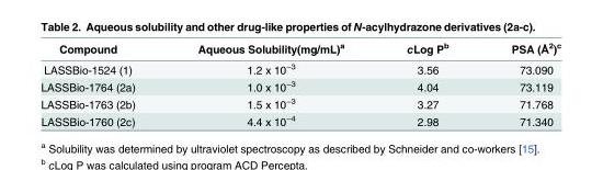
<table><thead><tr><td>Compound</td><td>Aqueous Solubility(mg/mL)<sup>a</sup></td><td>cLog P<sup>b</sup></td><td>PSA (Å<sup>2</sup>)<sup>c</sup></td></tr></thead><tbody><tr><td>LASSBio-1524 (1)</td><td>1.2 x 10<sup>−3</sup></td><td>3.56</td><td>73.090</td></tr><tr><td>LASSBio-1764 (2a)</td><td>1.0 x 10<sup>−3</sup></td><td>4.04</td><td>73.119</td></tr><tr><td>LASSBio-1763 (2b)</td><td>1.5 x 10<sup>−3</sup></td><td>3.27</td><td>71.768</td></tr><tr><td>LASSBio-1760 (2c)</td><td>4.4 x 10<sup>−4</sup></td><td>2.98</td><td>71.340</td></tr></tbody></table>